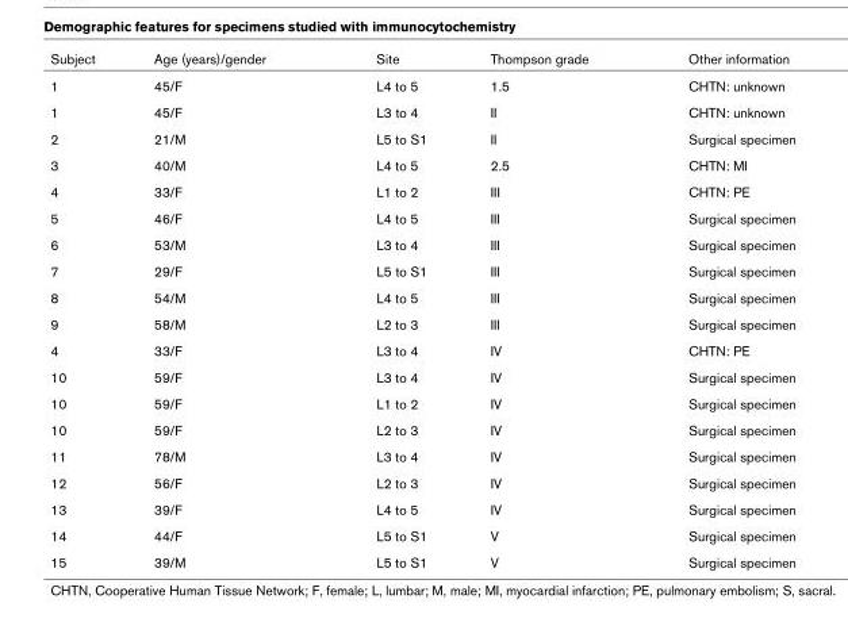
<table><thead><tr><td>Subject</td><td>Age (years)/gender</td><td>Site</td><td>Thompson grade</td><td>Other information</td></tr></thead><tbody><tr><td>1</td><td>45/F</td><td>L4 to 5</td><td>1.5</td><td>CHTN: unknown</td></tr><tr><td>1</td><td>45/F</td><td>L3 to 4</td><td>II</td><td>CHTN: unknown</td></tr><tr><td>2</td><td>21/M</td><td>L5 to S1</td><td>II</td><td>Surgical specimen</td></tr><tr><td>3</td><td>40/M</td><td>L4 to 5</td><td>2.5</td><td>CHTN: MI</td></tr><tr><td>4</td><td>33/F</td><td>L1 to 2</td><td>III</td><td>CHTN: PE</td></tr><tr><td>5</td><td>46/F</td><td>L4 to 5</td><td>III</td><td>Surgical specimen</td></tr><tr><td>6</td><td>53/M</td><td>L3 to 4</td><td>III</td><td>Surgical specimen</td></tr><tr><td>7</td><td>29/F</td><td>L5 to S1</td><td>III</td><td>Surgical specimen</td></tr><tr><td>8</td><td>54/M</td><td>L4 to 5</td><td>III</td><td>Surgical specimen</td></tr><tr><td>9</td><td>58/M</td><td>L2 to 3</td><td>III</td><td>Surgical specimen</td></tr><tr><td>4</td><td>33/F</td><td>L3 to 4</td><td>IV</td><td>CHTN: PE</td></tr><tr><td>10</td><td>59/F</td><td>L3 to 4</td><td>IV</td><td>Surgical specimen</td></tr><tr><td>10</td><td>59/F</td><td>L1 to 2</td><td>IV</td><td>Surgical specimen</td></tr><tr><td>10</td><td>59/F</td><td>L2 to 3</td><td>IV</td><td>Surgical specimen</td></tr><tr><td>11</td><td>78/M</td><td>L3 to 4</td><td>IV</td><td>Surgical specimen</td></tr><tr><td>12</td><td>56/F</td><td>L2 to 3</td><td>IV</td><td>Surgical specimen</td></tr><tr><td>13</td><td>39/F</td><td>L4 to 5</td><td>IV</td><td>Surgical specimen</td></tr><tr><td>14</td><td>44/F</td><td>L5 to S1</td><td>V</td><td>Surgical specimen</td></tr><tr><td>15</td><td>39/M</td><td>L5 to S1</td><td>V</td><td>Surgical specimen</td></tr></tbody></table>